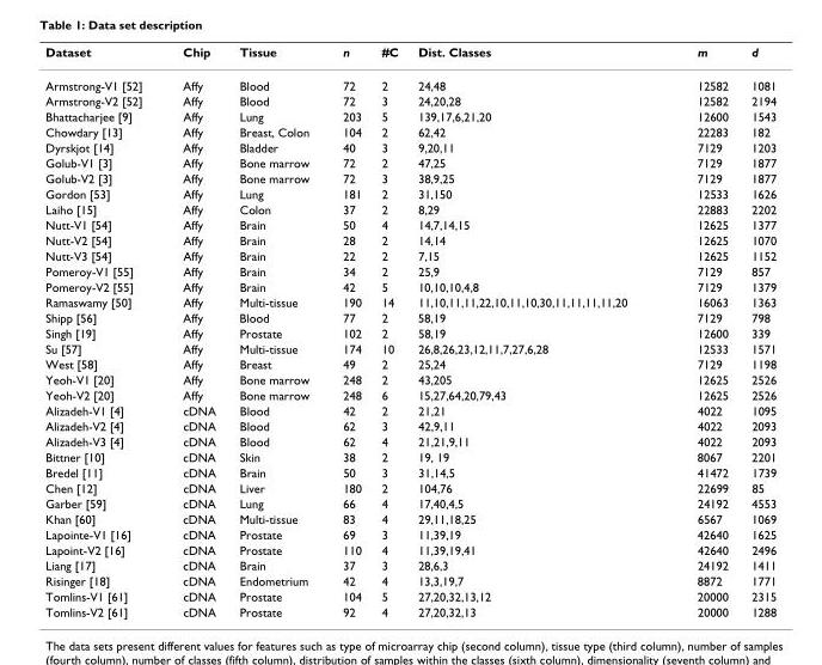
<table><thead><tr><td>Dataset</td><td>Chip</td><td>Tissue</td><td>n</td><td>#C</td><td>Dist. Classes</td><td>m</td><td>d</td></tr></thead><tbody><tr><td>Armstrong-V1 [52]</td><td>Affy</td><td>Blood</td><td>72</td><td>2</td><td>24,48</td><td>12582</td><td>1081</td></tr><tr><td>Armstrong-V2 [52]</td><td>Affy</td><td>Blood</td><td>72</td><td>3</td><td>24,20,28</td><td>12582</td><td>2194</td></tr><tr><td>Bhattacharjee [9]</td><td>Affy</td><td>Lung</td><td>203</td><td>5</td><td>139,17,6,21,20</td><td>12600</td><td>1543</td></tr><tr><td>Chowdary [13]</td><td>Affy</td><td>Breast, Colon</td><td>104</td><td>2</td><td>62,42</td><td>22283</td><td>182</td></tr><tr><td>Dyrskjot [14]</td><td>Affy</td><td>Bladder</td><td>40</td><td>3</td><td>9,20,11</td><td>7129</td><td>1203</td></tr><tr><td>Golub-V1 [3]</td><td>Affy</td><td>Bone marrow</td><td>72</td><td>2</td><td>47,25</td><td>7129</td><td>1877</td></tr><tr><td>Golub-V2 [3]</td><td>Affy</td><td>Bone marrow</td><td>72</td><td>3</td><td>38,9,25</td><td>7129</td><td>1877</td></tr><tr><td>Gordon [53]</td><td>Affy</td><td>Lung</td><td>181</td><td>2</td><td>31,150</td><td>12533</td><td>1626</td></tr><tr><td>Laiho [15]</td><td>Affy</td><td>Colon</td><td>37</td><td>2</td><td>8,29</td><td>22883</td><td>2202</td></tr><tr><td>Nutt-V1 [54]</td><td>Affy</td><td>Brain</td><td>50</td><td>4</td><td>14,7,14,15</td><td>12625</td><td>1377</td></tr><tr><td>Nutt-V2 [54]</td><td>Affy</td><td>Brain</td><td>28</td><td>2</td><td>14,14</td><td>12625</td><td>1070</td></tr><tr><td>Nutt-V3 [54]</td><td>Affy</td><td>Brain</td><td>22</td><td>2</td><td>7,15</td><td>12625</td><td>1152</td></tr><tr><td>Pomeroy-V1 [55]</td><td>Affy</td><td>Brain</td><td>34</td><td>2</td><td>25,9</td><td>7129</td><td>857</td></tr><tr><td>Pomeroy-V2 [55]</td><td>Affy</td><td>Brain</td><td>42</td><td>5</td><td>10,10,10,4,8</td><td>7129</td><td>1379</td></tr><tr><td>Ramaswamy [50]</td><td>Affy</td><td>Multi-tissue</td><td>190</td><td>14</td><td>11,10,11,11,22,10,11,10,30,11,11,11,11,20</td><td>16063</td><td>1363</td></tr><tr><td>Shipp [56]</td><td>Affy</td><td>Blood</td><td>77</td><td>2</td><td>58,19</td><td>7129</td><td>798</td></tr><tr><td>Singh [19]</td><td>Affy</td><td>Prostate</td><td>102</td><td>2</td><td>58,19</td><td>12600</td><td>339</td></tr><tr><td>Su [57]</td><td>Affy</td><td>Multi-tissue</td><td>174</td><td>10</td><td>26,8,26,23,12,11,7,27,6,28</td><td>12533</td><td>1571</td></tr><tr><td>West [58]</td><td>Affy</td><td>Breast</td><td>49</td><td>2</td><td>25,24</td><td>7129</td><td>1198</td></tr><tr><td>Yeoh-V1 [20]</td><td>Affy</td><td>Bone marrow</td><td>248</td><td>2</td><td>43,205</td><td>12625</td><td>2526</td></tr><tr><td>Yeoh-V2 [20]</td><td>Affy</td><td>Bone marrow</td><td>248</td><td>6</td><td>15,27,64,20,79,43</td><td>12625</td><td>2526</td></tr><tr><td>Alizadeh-V1 [4]</td><td>cDNA</td><td>Blood</td><td>42</td><td>2</td><td>21,21</td><td>4022</td><td>1095</td></tr><tr><td>Alizadeh-V2 [4]</td><td>cDNA</td><td>Blood</td><td>62</td><td>3</td><td>42,9,11</td><td>4022</td><td>2093</td></tr><tr><td>Alizadeh-V3 [4]</td><td>cDNA</td><td>Blood</td><td>62</td><td>4</td><td>21,21,9,11</td><td>4022</td><td>2093</td></tr><tr><td>Bittner [10]</td><td>cDNA</td><td>Skin</td><td>38</td><td>2</td><td>19, 19</td><td>8067</td><td>2201</td></tr><tr><td>Bredel [11]</td><td>cDNA</td><td>Brain</td><td>50</td><td>3</td><td>31,14,5</td><td>41472</td><td>1739</td></tr><tr><td>Chen [12]</td><td>cDNA</td><td>Liver</td><td>180</td><td>2</td><td>104,76</td><td>22699</td><td>85</td></tr><tr><td>Garber [59]</td><td>cDNA</td><td>Lung</td><td>66</td><td>4</td><td>17,40,4,5</td><td>24192</td><td>4553</td></tr><tr><td>Khan [60]</td><td>cDNA</td><td>Multi-tissue</td><td>83</td><td>4</td><td>29,11,18,25</td><td>6567</td><td>1069</td></tr><tr><td>Lapointe-V1 [16]</td><td>cDNA</td><td>Prostate</td><td>69</td><td>3</td><td>11,39,19</td><td>42640</td><td>1625</td></tr><tr><td>Lapoint-V2 [16]</td><td>cDNA</td><td>Prostate</td><td>110</td><td>4</td><td>11,39,19,41</td><td>42640</td><td>2496</td></tr><tr><td>Liang [17]</td><td>cDNA</td><td>Brain</td><td>37</td><td>3</td><td>28,6,3</td><td>24192</td><td>1411</td></tr><tr><td>Risinger [18]</td><td>cDNA</td><td>Endometrium</td><td>42</td><td>4</td><td>13,3,19,7</td><td>8872</td><td>1771</td></tr><tr><td>Tomlins-V1 [61]</td><td>cDNA</td><td>Prostate</td><td>104</td><td>5</td><td>27,20,32,13,12</td><td>20000</td><td>2315</td></tr><tr><td>Tomlins-V2 [61]</td><td>cDNA</td><td>Prostate</td><td>92</td><td>4</td><td>27,20,32,13</td><td>20000</td><td>1288</td></tr></tbody></table>